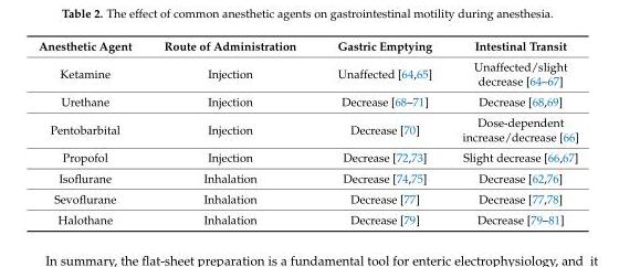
<table><thead><tr><td>Anesthetic Agent</td><td>Route of Administration</td><td>Gastric Emptying</td><td>Intestinal Transit</td></tr></thead><tbody><tr><td>Ketamine</td><td>Injection</td><td>Unaffected [64,65]</td><td>Unaffected/slight decrease [64–67]</td></tr><tr><td>Urethane</td><td>Injection</td><td>Decrease [68–71]</td><td>Decrease [68,69]</td></tr><tr><td>Pentobarbital</td><td>Injection</td><td>Decrease [70]</td><td>Dose-dependent increase/decrease [66]</td></tr><tr><td>Propofol</td><td>Injection</td><td>Decrease [72,73]</td><td>Slight decrease [66,67]</td></tr><tr><td>Isoflurane</td><td>Inhalation</td><td>Decrease [74,75]</td><td>Decrease [62,76]</td></tr><tr><td>Sevoflurane</td><td>Inhalation</td><td>Decrease [77]</td><td>Decrease [77,78]</td></tr><tr><td>Halothane</td><td>Inhalation</td><td>Decrease [79]</td><td>Decrease [79–81]</td></tr></tbody></table>